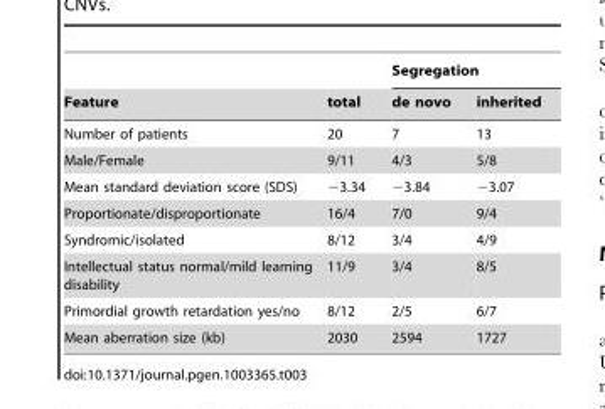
<table><thead><tr><td rowspan="2">Feature</td><td rowspan="2">total</td><td colspan="2">Segregation</td></tr><tr><td>de novo</td><td>inherited</td></tr></thead><tbody><tr><td>Number of patients</td><td>20</td><td>7</td><td>13</td></tr><tr><td>Male/Female</td><td>9/11</td><td>4/3</td><td>5/8</td></tr><tr><td>Mean standard deviation score (SDS)</td><td>−3.34</td><td>−3.84</td><td>−3.07</td></tr><tr><td>Proportionate/disproportionate</td><td>16/4</td><td>7/0</td><td>9/4</td></tr><tr><td>Syndromic/isolated</td><td>8/12</td><td>3/4</td><td>4/9</td></tr><tr><td>Intellectual status normal/mild learning disability</td><td>11/9</td><td>3/4</td><td>8/5</td></tr><tr><td>Primordial growth retardation yes/no</td><td>8/12</td><td>2/5</td><td>6/7</td></tr><tr><td>Mean aberration size (kb)</td><td>2030</td><td>2594</td><td>1727</td></tr></tbody></table>